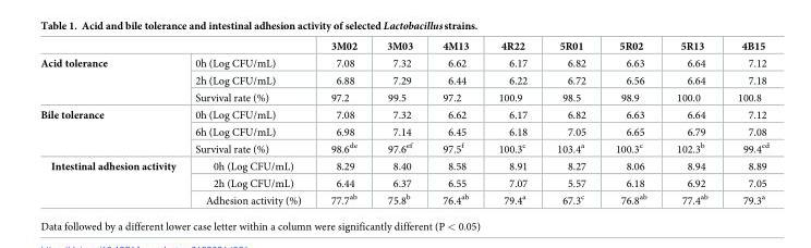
<table><thead><tr><td></td><td></td><td>3M02</td><td>3M03</td><td>4M13</td><td>4R22</td><td>5R01</td><td>5R02</td><td>5R13</td><td>4B15</td></tr></thead><tbody><tr><td rowspan="3">Acid tolerance</td><td>0h (Log CFU/mL)</td><td>7.08</td><td>7.32</td><td>6.62</td><td>6.17</td><td>6.82</td><td>6.63</td><td>6.64</td><td>7.12</td></tr><tr><td>2h (Log CFU/mL)</td><td>6.88</td><td>7.29</td><td>6.44</td><td>6.22</td><td>6.72</td><td>6.56</td><td>6.64</td><td>7.18</td></tr><tr><td>Survival rate (%)</td><td>97.2</td><td>99.5</td><td>97.2</td><td>100.9</td><td>98.5</td><td>98.9</td><td>100.0</td><td>100.8</td></tr><tr><td rowspan="3">Bile tolerance</td><td>0h (Log CFU/mL)</td><td>7.08</td><td>7.32</td><td>6.62</td><td>6.17</td><td>6.82</td><td>6.63</td><td>6.64</td><td>7.12</td></tr><tr><td>6h (Log CFU/mL)</td><td>6.98</td><td>7.14</td><td>6.45</td><td>6.18</td><td>7.05</td><td>6.65</td><td>6.79</td><td>7.08</td></tr><tr><td>Survival rate (%)</td><td>98.6<sup>de</sup></td><td>97.6<sup>ef</sup></td><td>97.5<sup>f</sup></td><td>100.3<sup>c</sup></td><td>103.4<sup>a</sup></td><td>100.3<sup>c</sup></td><td>102.3<sup>b</sup></td><td>99.4<sup>cd</sup></td></tr><tr><td rowspan="3">Intestinal adhesion activity</td><td>0h (Log CFU/mL)</td><td>8.29</td><td>8.40</td><td>8.58</td><td>8.91</td><td>8.27</td><td>8.06</td><td>8.94</td><td>8.89</td></tr><tr><td>2h (Log CFU/mL)</td><td>6.44</td><td>6.37</td><td>6.55</td><td>7.07</td><td>5.57</td><td>6.18</td><td>6.92</td><td>7.05</td></tr><tr><td>Adhesion activity (%)</td><td>77.7<sup>ab</sup></td><td>75.8<sup>b</sup></td><td>76.4<sup>ab</sup></td><td>79.4<sup>a</sup></td><td>67.3<sup>c</sup></td><td>76.8<sup>ab</sup></td><td>77.4<sup>ab</sup></td><td>79.3<sup>a</sup></td></tr></tbody></table>